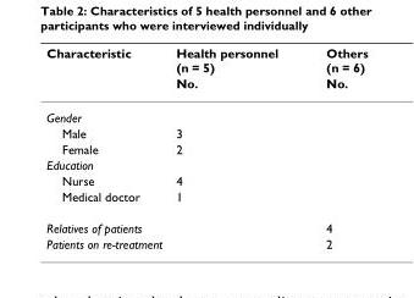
<table><thead><tr><td rowspan="2">Characteristic</td><td rowspan="2">Health personnel (n = 5) No.</td><td rowspan="2">Others (n = 6) No.</td></tr><tr></tr></thead><tbody><tr><td colspan="3">Gender</td></tr><tr><td>Male</td><td>3</td><td></td></tr><tr><td>Female</td><td>2</td><td></td></tr><tr><td colspan="3">Education</td></tr><tr><td>Nurse</td><td>4</td><td></td></tr><tr><td>Medical doctor</td><td>1</td><td></td></tr><tr><td>Relatives of patients</td><td></td><td>4</td></tr><tr><td>Patients on re-treatment</td><td></td><td>2</td></tr></tbody></table>